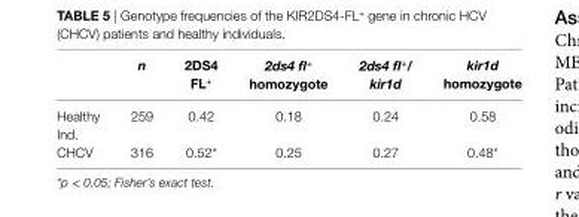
<table><thead><tr><td></td><td>n</td><td>2Ds4 Fl<sup>+</sup></td><td>2ds4 fl<sup>+</sup> homozygote</td><td>2ds4 fl<sup>+</sup>/ kir1d</td><td>kir1d homozygote</td></tr></thead><tbody><tr><td>Healthy Ind.</td><td>259</td><td>0.42</td><td>0.18</td><td>0.24</td><td>0.58</td></tr><tr><td>CHCV</td><td>316</td><td>0.52*</td><td>0.25</td><td>0.27</td><td>0.48*</td></tr></tbody></table>